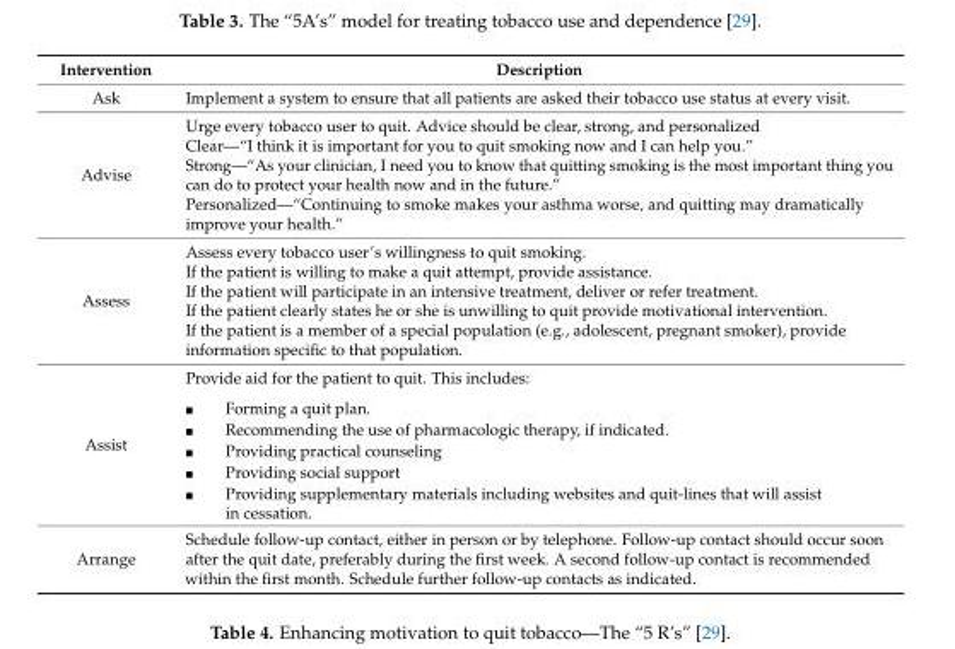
<table><thead><tr><td>Intervention</td><td>Description</td></tr></thead><tbody><tr><td>Ask</td><td>Implement a system to ensure that all patients are asked their tobacco use status at every visit.</td></tr><tr><td>Advise</td><td>Urge every tobacco user to quit. Advice should be clear, strong, and personalized Clear—“I think it is important for you to quit smoking now and I can help you.” Strong—“As your clinician, I need you to know that quitting smoking is the most important thing you can do to protect your health now and in the future.” Personalized—“Continuing to smoke makes your asthma worse, and quitting may dramatically improve your health.”</td></tr><tr><td>Assess</td><td>Assess every tobacco user’s willingness to quit smoking. If the patient is willing to make a quit attempt, provide assistance. If the patient will participate in an intensive treatment, deliver or refer treatment. If the patient clearly states he or she is unwilling to quit provide motivational intervention. If the patient is a member of a special population (e.g., adolescent, pregnant smoker), provide information specific to that population.</td></tr><tr><td>Assist</td><td>Provide aid for the patient to quit. This includes: ■ Forming a quit plan. ■ Recommending the use of pharmacologic therapy, if indicated. ■ Providing practical counseling ■ Providing social support ■ Providing supplementary materials including websites and quit-lines that will assist in cessation.</td></tr><tr><td>Arrange</td><td>Schedule follow-up contact, either in person or by telephone. Follow-up contact should occur soon after the quit date, preferably during the first week. A second follow-up contact is recommended within the first month. Schedule further follow-up contacts as indicated.</td></tr></tbody></table>